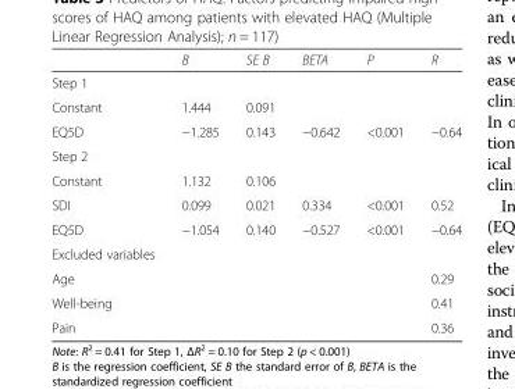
<table><thead><tr><td></td><td>B</td><td>SE B</td><td>BETA</td><td>P</td><td>R</td></tr></thead><tbody><tr><td colspan="6">Step 1</td></tr><tr><td>Constant</td><td>1.444</td><td>0.091</td><td></td><td></td><td></td></tr><tr><td>EQ5D</td><td>−1.285</td><td>0.143</td><td>−0.642</td><td>&lt;0.001</td><td>−0.64</td></tr><tr><td colspan="6">Step 2</td></tr><tr><td>Constant</td><td>1.132</td><td>0.106</td><td></td><td></td><td></td></tr><tr><td>SDI</td><td>0.099</td><td>0.021</td><td>0.334</td><td>&lt;0.001</td><td>0.52</td></tr><tr><td>EQ5D</td><td>−1.054</td><td>0.140</td><td>−0.527</td><td>&lt;0.001</td><td>−0.64</td></tr><tr><td colspan="6">Excluded variables</td></tr><tr><td>Age</td><td></td><td></td><td></td><td></td><td>0.29</td></tr><tr><td>Well-being</td><td></td><td></td><td></td><td></td><td>0.41</td></tr><tr><td>Pain</td><td></td><td></td><td></td><td></td><td>0.36</td></tr></tbody></table>